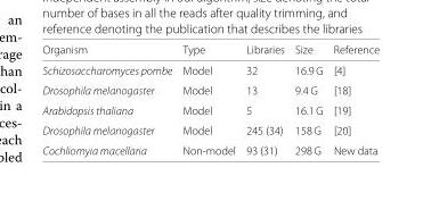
<table><thead><tr><td>Organism</td><td>Type</td><td>Libraries</td><td>Size</td><td>Reference</td></tr></thead><tbody><tr><td>Schizosaccharomyces pombe</td><td>Model</td><td>32</td><td>16.9 G</td><td>[4]</td></tr><tr><td>Drosophila melanogaster</td><td>Model</td><td>13</td><td>9.4 G</td><td>[18]</td></tr><tr><td>Arabidopsis thaliana</td><td>Model</td><td>5</td><td>16.1 G</td><td>[19]</td></tr><tr><td>Drosophila melanogaster</td><td>Model</td><td>245 (34)</td><td>158 G</td><td>[20]</td></tr><tr><td>Cochliomyia macellaria</td><td>Non-model</td><td>93 (31)</td><td>298 G</td><td>New data</td></tr></tbody></table>